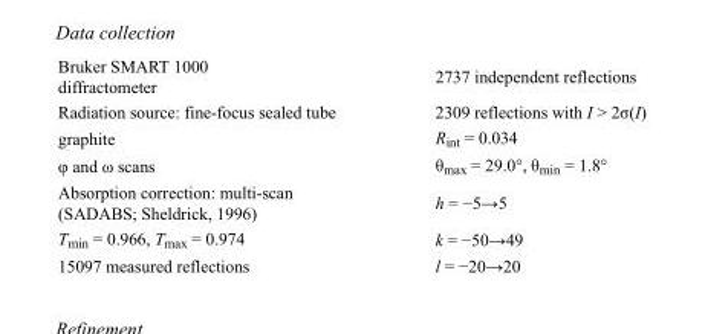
<table><tbody><tr><td>Bruker SMART 1000 diffractometer</td><td>2737 independent reflections</td></tr><tr><td>Radiation source: fine-focus sealed tube</td><td>2309 reflections with I &gt; 2σ(I)</td></tr><tr><td>graphite</td><td>R<sub>int</sub> = 0.034</td></tr><tr><td>φ and ω scans</td><td>θ<sub>max</sub> = 29.0°, θ<sub>min</sub> = 1.8°</td></tr><tr><td>Absorption correction: multi-scan (SADABS; Sheldrick, 1996)</td><td>h = −5→5</td></tr><tr><td>T<sub>min</sub> = 0.966, T<sub>max</sub> = 0.974</td><td>k = −50→49</td></tr><tr><td>15097 measured reflections</td><td>l = −20→20</td></tr></tbody></table>